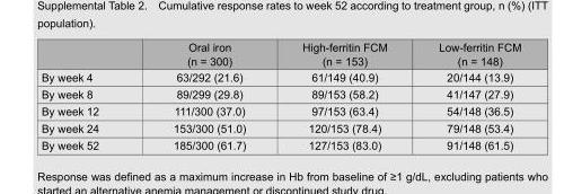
<table><thead><tr><td></td><td>Oral iron (n = 300)</td><td>High-ferritin FCM (n = 153)</td><td>Low-ferritin FCM (n = 148)</td></tr></thead><tbody><tr><td>By week 4</td><td>63/292 (21.6)</td><td>61/149 (40.9)</td><td>20/144 (13.9)</td></tr><tr><td>By week 8</td><td>89/299 (29.8)</td><td>89/153 (58.2)</td><td>41/147 (27.9)</td></tr><tr><td>By week 12</td><td>111/300 (37.0)</td><td>97/153 (63.4)</td><td>54/148 (36.5)</td></tr><tr><td>By week 24</td><td>153/300 (51.0)</td><td>120/153 (78.4)</td><td>79/148 (53.4)</td></tr><tr><td>By week 52</td><td>185/300 (61.7)</td><td>127/153 (83.0)</td><td>91/148 (61.5)</td></tr></tbody></table>